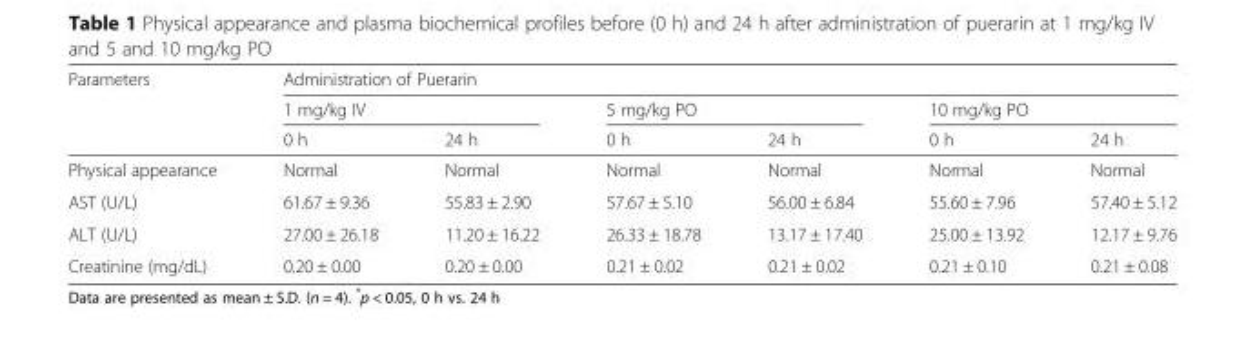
<table><thead><tr><td rowspan="3">Parameters</td><td colspan="6">Administration of Puerarin</td></tr><tr><td colspan="2">1 mg/kg IV</td><td colspan="2">5 mg/kg PO</td><td colspan="2">10 mg/kg PO</td></tr><tr><td>0 h</td><td>24 h</td><td>0 h</td><td>24 h</td><td>0 h</td><td>24 h</td></tr></thead><tbody><tr><td>Physical appearance</td><td>Normal</td><td>Normal</td><td>Normal</td><td>Normal</td><td>Normal</td><td>Normal</td></tr><tr><td>AST (U/L)</td><td>61.67 ± 9.36</td><td>55.83 ± 2.90</td><td>57.67 ± 5.10</td><td>56.00 ± 6.84</td><td>55.60 ± 7.96</td><td>57.40 ± 5.12</td></tr><tr><td>ALT (U/L)</td><td>27.00 ± 26.18</td><td>11.20 ± 16.22</td><td>26.33 ± 18.78</td><td>13.17 ± 17.40</td><td>25.00 ± 13.92</td><td>12.17 ± 9.76</td></tr><tr><td>Creatinine (mg/dL)</td><td>0.20 ± 0.00</td><td>0.20 ± 0.00</td><td>0.21 ± 0.02</td><td>0.21 ± 0.02</td><td>0.21 ± 0.10</td><td>0.21 ± 0.08</td></tr></tbody></table>